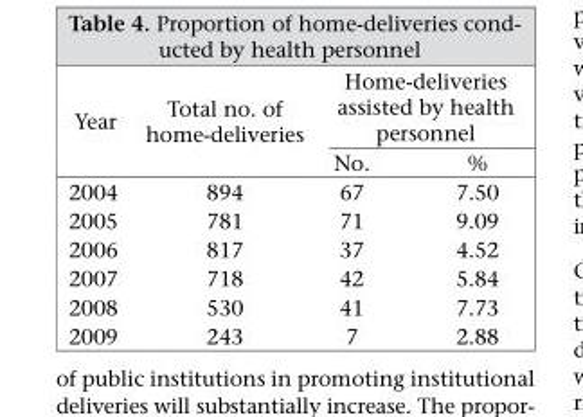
<table><thead><tr><td rowspan="2">Year</td><td rowspan="2">Total no. of home-deliveries</td><td colspan="2">Home-deliveries assisted by health personnel</td></tr><tr><td>No.</td><td>%</td></tr></thead><tbody><tr><td>2004</td><td>894</td><td>67</td><td>7.50</td></tr><tr><td>2005</td><td>781</td><td>71</td><td>9.09</td></tr><tr><td>2006</td><td>817</td><td>37</td><td>4.52</td></tr><tr><td>2007</td><td>718</td><td>42</td><td>5.84</td></tr><tr><td>2008</td><td>530</td><td>41</td><td>7.73</td></tr><tr><td>2009</td><td>243</td><td>7</td><td>2.88</td></tr></tbody></table>